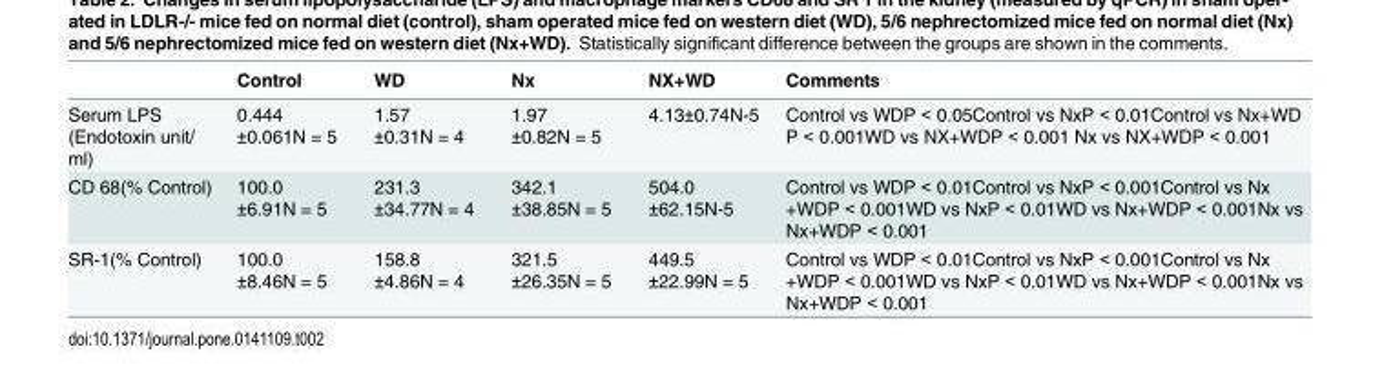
<table><thead><tr><td></td><td>Control</td><td>WD</td><td>Nx</td><td>NX+WD</td><td>Comments</td></tr></thead><tbody><tr><td>Serum LPS (Endotoxin unit/ ml)</td><td>0.444 ±0.061N = 5</td><td>1.57 ±0.31N = 4</td><td>1.97 ±0.82N = 5</td><td>4.13±0.74N-5</td><td>Control vs WDP &lt; 0.05Control vs NxP &lt; 0.01Control vs Nx+WD P &lt; 0.001WD vs NX+WDP &lt; 0.001 Nx vs NX+WDP &lt; 0.001</td></tr><tr><td>CD 68(% Control)</td><td>100.0 ±6.91N = 5</td><td>231.3 ±34.77N = 4</td><td>342.1 ±38.85N = 5</td><td>504.0 ±62.15N-5</td><td>Control vs WDP &lt; 0.01Control vs NxP &lt; 0.001Control vs Nx +WDP &lt; 0.001WD vs NxP &lt; 0.01WD vs Nx+WDP &lt; 0.001Nx vs Nx+WDP &lt; 0.001</td></tr><tr><td>SR-1(% Control)</td><td>100.0 ±8.46N = 5</td><td>158.8 ±4.86N = 4</td><td>321.5 ±26.35N = 5</td><td>449.5 ±22.99N = 5</td><td>Control vs WDP &lt; 0.01Control vs NxP &lt; 0.001Control vs Nx +WDP &lt; 0.001WD vs NxP &lt; 0.01WD vs Nx+WDP &lt; 0.001Nx vs Nx+WDP &lt; 0.001</td></tr></tbody></table>